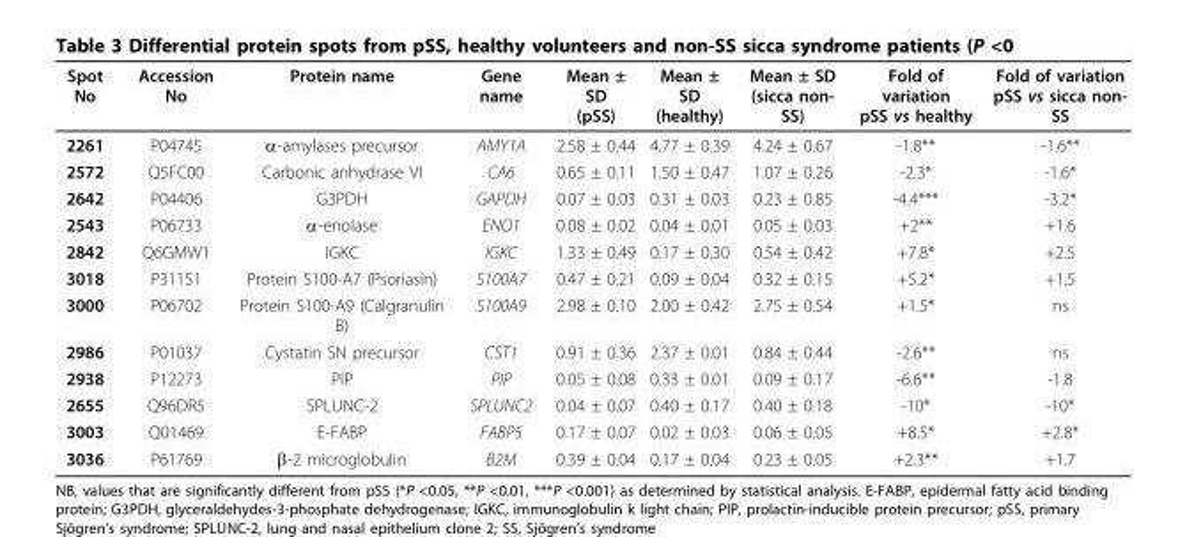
<table><thead><tr><td>Spot No</td><td>Accession No</td><td>Protein name</td><td>Gene name</td><td>Mean ± SD (pSS)</td><td>Mean ± SD (healthy)</td><td>Mean ± SD (sicca non- SS)</td><td>Fold of variation pSS vs healthy</td><td>Fold of variation pSS vs sicca non- SS</td></tr></thead><tbody><tr><td>2261</td><td>P04745</td><td>α-amylases precursor</td><td>AMY1A</td><td>2.58 ± 0.44</td><td>4.77 ± 0.39</td><td>4.24 ± 0.67</td><td>-1.8**</td><td>-1.6**</td></tr><tr><td>2572</td><td>Q5FC00</td><td>Carbonic anhydrase VI</td><td>CA6</td><td>0.65 ± 0.11</td><td>1.50 ± 0.47</td><td>1.07 ± 0.26</td><td>-2.3*</td><td>-1.6*</td></tr><tr><td>2642</td><td>P04406</td><td>G3PDH</td><td>GAPDH</td><td>0.07 ± 0.03</td><td>0.31 ± 0.03</td><td>0.23 ± 0.85</td><td>-4.4***</td><td>-3.2*</td></tr><tr><td>2543</td><td>P06733</td><td>α-enolase</td><td>ENO1</td><td>0.08 ± 0.02</td><td>0.04 ± 0.01</td><td>0.05 ± 0.03</td><td>+2**</td><td>+1.6</td></tr><tr><td>2842</td><td>Q6GMW1</td><td>IGKC</td><td>IGKC</td><td>1.33 ± 0.49</td><td>0.17 ± 0.30</td><td>0.54 ± 0.42</td><td>+7.8*</td><td>+2.5</td></tr><tr><td>3018</td><td>P31151</td><td>Protein S100-A7 (Psoriasin)</td><td>S100A7</td><td>0.47 ± 0.21</td><td>0.09 ± 0.04</td><td>0.32 ± 0.15</td><td>+5.2*</td><td>+1.5</td></tr><tr><td>3000</td><td>P06702</td><td>Protein S100-A9 (Calgranulin B)</td><td>S100A9</td><td>2.98 ± 0.10</td><td>2.00 ± 0.42</td><td>2.75 ± 0.54</td><td>+1.5*</td><td>ns</td></tr><tr><td>2986</td><td>P01037</td><td>Cystatin SN precursor</td><td>CST1</td><td>0.91 ± 0.36</td><td>2.37 ± 0.01</td><td>0.84 ± 0.44</td><td>-2.6**</td><td>ns</td></tr><tr><td>2938</td><td>P12273</td><td>PIP</td><td>PIP</td><td>0.05 ± 0.08</td><td>0.33 ± 0.01</td><td>0.09 ± 0.17</td><td>-6.6**</td><td>-1.8</td></tr><tr><td>2655</td><td>Q96DR5</td><td>SPLUNC-2</td><td>SPLUNC2</td><td>0.04 ± 0.07</td><td>0.40 ± 0.17</td><td>0.40 ± 0.18</td><td>-10*</td><td>-10*</td></tr><tr><td>3003</td><td>Q01469</td><td>E-FABP</td><td>FABP5</td><td>0.17 ± 0.07</td><td>0.02 ± 0.03</td><td>0.06 ± 0.05</td><td>+8.5*</td><td>+2.8*</td></tr><tr><td>3036</td><td>P61769</td><td>β-2 microglobulin</td><td>B2M</td><td>0.39 ± 0.04</td><td>0.17 ± 0.04</td><td>0.23 ± 0.05</td><td>+2.3**</td><td>+1.7</td></tr></tbody></table>